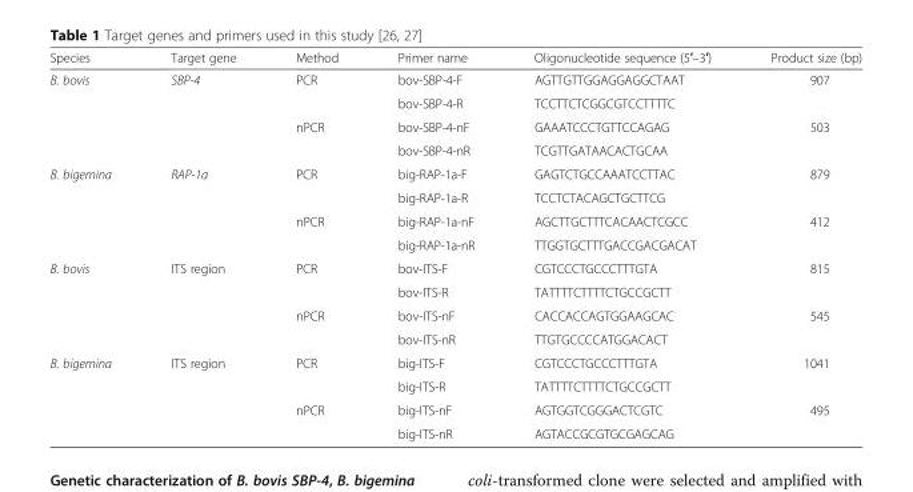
<table><thead><tr><td>Species</td><td>Target gene</td><td>Method</td><td>Primer name</td><td>Oligonucleotide sequence (5′–3′)</td><td>Product size (bp)</td></tr></thead><tbody><tr><td rowspan="4">B. bovis</td><td>SBP-4</td><td rowspan="2">PCR</td><td>bov-SBP-4-F</td><td>AGTTGTTGGAGGAGGCTAAT</td><td rowspan="2">907</td></tr><tr><td></td><td>bov-SBP-4-R</td><td>TCCTTCTCGGCGTCCTTTTC</td></tr><tr><td></td><td rowspan="2">nPCR</td><td>bov-SBP-4-nF</td><td>GAAATCCCTGTTCCAGAG</td><td rowspan="2">503</td></tr><tr><td></td><td>bov-SBP-4-nR</td><td>TCGTTGATAACACTGCAA</td></tr><tr><td rowspan="4">B. bigemina</td><td>RAP-1a</td><td rowspan="2">PCR</td><td>big-RAP-1a-F</td><td>GAGTCTGCCAAATCCTTAC</td><td rowspan="2">879</td></tr><tr><td></td><td>big-RAP-1a-R</td><td>TCCTCTACAGCTGCTTCG</td></tr><tr><td></td><td rowspan="2">nPCR</td><td>big-RAP-1a-nF</td><td>AGCTTGCTTTCACAACTCGCC</td><td rowspan="2">412</td></tr><tr><td></td><td>big-RAP-1a-nR</td><td>TTGGTGCTTTGACCGACGACAT</td></tr><tr><td rowspan="4">B. bovis</td><td>ITS region</td><td>PCR</td><td>bov-ITS-F</td><td>CGTCCCTGCCCTTTGTA</td><td>815</td></tr><tr><td></td><td></td><td>bov-ITS-R</td><td>TATTTTCTTTTCTGCCGCTT</td><td></td></tr><tr><td></td><td>nPCR</td><td>bov-ITS-nF</td><td>CACCACCAGTGGAAGCAC</td><td>545</td></tr><tr><td></td><td></td><td>bov-ITS-nR</td><td>TTGTGCCCCATGGACACT</td><td></td></tr><tr><td rowspan="4">B. bigemina</td><td>ITS region</td><td>PCR</td><td>big-ITS-F</td><td>CGTCCCTGCCCTTTGTA</td><td>1041</td></tr><tr><td></td><td></td><td>big-ITS-R</td><td>TATTTTCTTTTCTGCCGCTT</td><td></td></tr><tr><td></td><td>nPCR</td><td>big-ITS-nF</td><td>AGTGGTCGGGACTCGTC</td><td>495</td></tr><tr><td></td><td></td><td>big-ITS-nR</td><td>AGTACCGCGTGCGAGCAG</td><td></td></tr></tbody></table>